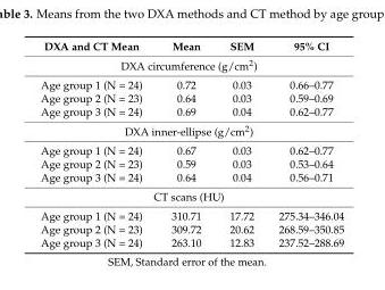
<table><thead><tr><td>DXA and CT Mean</td><td>Mean</td><td>SEM</td><td>95% CI</td></tr></thead><tbody><tr><td colspan="4">DXA circumference (g/cm<sup>2</sup>)</td></tr><tr><td>Age group 1 (N = 24)</td><td>0.72</td><td>0.03</td><td>0.66–0.77</td></tr><tr><td>Age group 2 (N = 23)</td><td>0.64</td><td>0.03</td><td>0.59–0.69</td></tr><tr><td>Age group 3 (N = 24)</td><td>0.69</td><td>0.04</td><td>0.62–0.77</td></tr><tr><td colspan="4">DXA inner-ellipse (g/cm<sup>2</sup>)</td></tr><tr><td>Age group 1 (N = 24)</td><td>0.67</td><td>0.03</td><td>0.62–0.77</td></tr><tr><td>Age group 2 (N = 23)</td><td>0.59</td><td>0.03</td><td>0.53–0.64</td></tr><tr><td>Age group 3 (N = 24)</td><td>0.64</td><td>0.04</td><td>0.56–0.71</td></tr><tr><td colspan="4">CT scans (HU)</td></tr><tr><td>Age group 1 (N = 24)</td><td>310.71</td><td>17.72</td><td>275.34–346.04</td></tr><tr><td>Age group 2 (N = 23)</td><td>309.72</td><td>20.62</td><td>268.59–350.85</td></tr><tr><td>Age group 3 (N = 24)</td><td>263.10</td><td>12.83</td><td>237.52–288.69</td></tr></tbody></table>